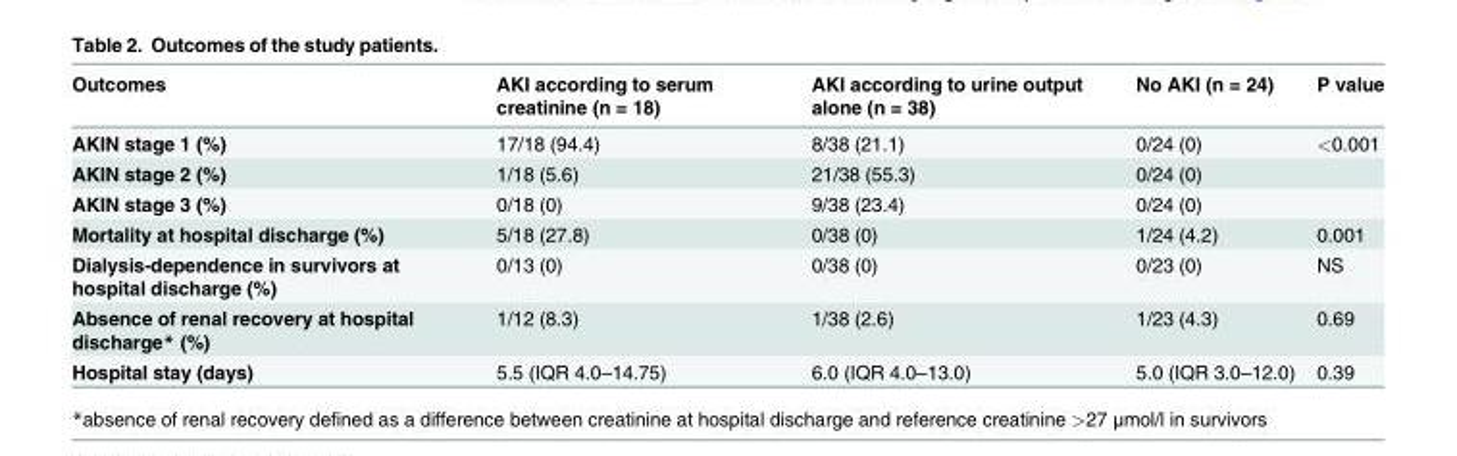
<table><thead><tr><td>Outcomes</td><td>AKI according to serum creatinine (n = 18)</td><td>AKI according to urine output alone (n = 38)</td><td>No AKI (n = 24)</td><td>P value</td></tr></thead><tbody><tr><td>AKIN stage 1 (%)</td><td>17/18 (94.4)</td><td>8/38 (21.1)</td><td>0/24 (0)</td><td>&lt;0.001</td></tr><tr><td>AKIN stage 2 (%)</td><td>1/18 (5.6)</td><td>21/38 (55.3)</td><td>0/24 (0)</td><td></td></tr><tr><td>AKIN stage 3 (%)</td><td>0/18 (0)</td><td>9/38 (23.4)</td><td>0/24 (0)</td><td></td></tr><tr><td>Mortality at hospital discharge (%)</td><td>5/18 (27.8)</td><td>0/38 (0)</td><td>1/24 (4.2)</td><td>0.001</td></tr><tr><td>Dialysis-dependence in survivors at hospital discharge (%)</td><td>0/13 (0)</td><td>0/38 (0)</td><td>0/23 (0)</td><td>NS</td></tr><tr><td>Absence of renal recovery at hospital discharge* (%)</td><td>1/12 (8.3)</td><td>1/38 (2.6)</td><td>1/23 (4.3)</td><td>0.69</td></tr><tr><td>Hospital stay (days)</td><td>5.5 (IQR 4.0–14.75)</td><td>6.0 (IQR 4.0–13.0)</td><td>5.0 (IQR 3.0–12.0)</td><td>0.39</td></tr></tbody></table>